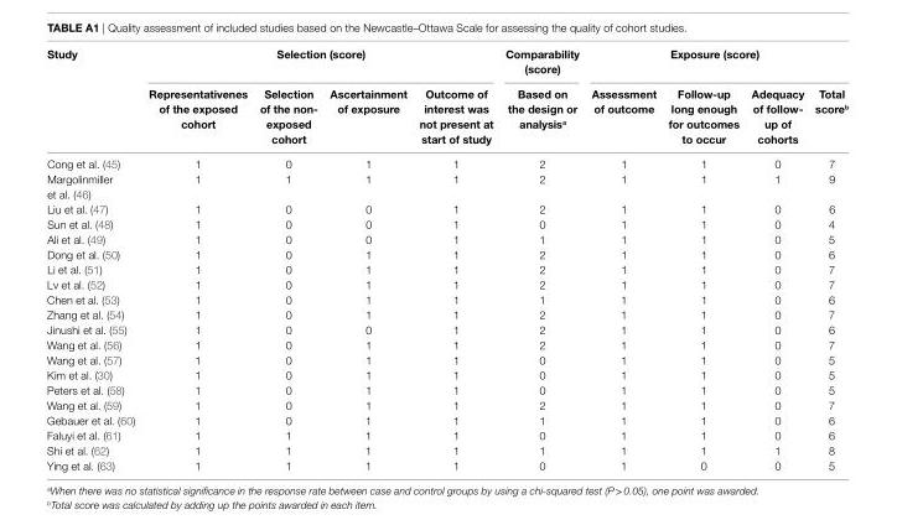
<table><thead><tr><td rowspan="2">Study</td><td colspan="4">Selection (score)</td><td rowspan="2">comparability (score) Based on the design or analysis<sup>a</sup></td><td colspan="4">exposure (score)</td></tr><tr><td>Representativenes of the exposed cohort</td><td>Selection of the non- exposed cohort</td><td>ascertainment of exposure</td><td>Outcome of interest was not present at start of study</td><td>assessment of outcome</td><td>Follow-up long enough for outcomes to occur</td><td>adequacy of follow- up of cohorts</td><td>total score<sup>b</sup></td></tr></thead><tbody><tr><td>Cong et al. (45)</td><td>1</td><td>0</td><td>1</td><td>1</td><td>2</td><td>1</td><td>1</td><td>0</td><td>7</td></tr><tr><td>Margolinmiller et al. (46)</td><td>1</td><td>1</td><td>1</td><td>1</td><td>2</td><td>1</td><td>1</td><td>1</td><td>9</td></tr><tr><td>Liu et al. (47)</td><td>1</td><td>0</td><td>0</td><td>1</td><td>2</td><td>1</td><td>1</td><td>0</td><td>6</td></tr><tr><td>Sun et al. (48)</td><td>1</td><td>0</td><td>0</td><td>1</td><td>0</td><td>1</td><td>1</td><td>0</td><td>4</td></tr><tr><td>Ali et al. (49)</td><td>1</td><td>0</td><td>0</td><td>1</td><td>1</td><td>1</td><td>1</td><td>0</td><td>5</td></tr><tr><td>Dong et al. (50)</td><td>1</td><td>0</td><td>1</td><td>1</td><td>2</td><td>1</td><td>1</td><td>0</td><td>6</td></tr><tr><td>Li et al. (51)</td><td>1</td><td>0</td><td>1</td><td>1</td><td>2</td><td>1</td><td>1</td><td>0</td><td>7</td></tr><tr><td>Lv et al. (52)</td><td>1</td><td>0</td><td>1</td><td>1</td><td>2</td><td>1</td><td>1</td><td>0</td><td>7</td></tr><tr><td>Chen et al. (53)</td><td>1</td><td>0</td><td>1</td><td>1</td><td>1</td><td>1</td><td>1</td><td>0</td><td>6</td></tr><tr><td>Zhang et al. (54)</td><td>1</td><td>0</td><td>1</td><td>1</td><td>2</td><td>1</td><td>1</td><td>0</td><td>7</td></tr><tr><td>Jinushi et al. (55)</td><td>1</td><td>0</td><td>0</td><td>1</td><td>2</td><td>1</td><td>1</td><td>0</td><td>6</td></tr><tr><td>Wang et al. (56)</td><td>1</td><td>0</td><td>1</td><td>1</td><td>2</td><td>1</td><td>1</td><td>0</td><td>7</td></tr><tr><td>Wang et al. (57)</td><td>1</td><td>0</td><td>1</td><td>1</td><td>0</td><td>1</td><td>1</td><td>0</td><td>5</td></tr><tr><td>Kim et al. (30)</td><td>1</td><td>0</td><td>1</td><td>1</td><td>0</td><td>1</td><td>1</td><td>0</td><td>5</td></tr><tr><td>Peters et al. (58)</td><td>1</td><td>0</td><td>1</td><td>1</td><td>0</td><td>1</td><td>1</td><td>0</td><td>5</td></tr><tr><td>Wang et al. (59)</td><td>1</td><td>0</td><td>1</td><td>1</td><td>2</td><td>1</td><td>1</td><td>0</td><td>7</td></tr><tr><td>Gebauer et al. (60)</td><td>1</td><td>0</td><td>1</td><td>1</td><td>1</td><td>1</td><td>1</td><td>0</td><td>6</td></tr><tr><td>Faluyi et al. (61)</td><td>1</td><td>1</td><td>1</td><td>1</td><td>0</td><td>1</td><td>1</td><td>0</td><td>6</td></tr><tr><td>Shi et al. (62)</td><td>1</td><td>1</td><td>1</td><td>1</td><td>1</td><td>1</td><td>1</td><td>1</td><td>8</td></tr><tr><td>Ying et al. (63)</td><td>1</td><td>1</td><td>1</td><td>1</td><td>0</td><td>1</td><td>0</td><td>0</td><td>5</td></tr></tbody></table>